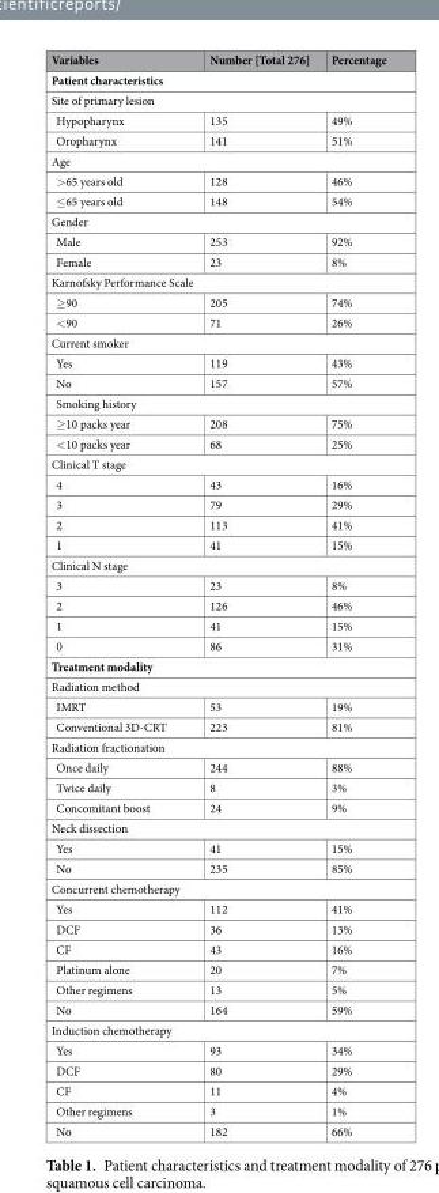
<table><thead><tr><td>Variables</td><td>Number [Total 276]</td><td>Percentage</td></tr></thead><tbody><tr><td colspan="3">Patient characteristics</td></tr><tr><td colspan="3">Site of primary lesion</td></tr><tr><td>Hypopharynx</td><td>135</td><td>49%</td></tr><tr><td>Oropharynx</td><td>141</td><td>51%</td></tr><tr><td colspan="3">Age</td></tr><tr><td>&gt;65 years old</td><td>128</td><td>46%</td></tr><tr><td>≤65 years old</td><td>148</td><td>54%</td></tr><tr><td colspan="3">Gender</td></tr><tr><td>Male</td><td>253</td><td>92%</td></tr><tr><td>Female</td><td>23</td><td>8%</td></tr><tr><td colspan="3">Karnofsky Performance Scale</td></tr><tr><td>≥90</td><td>205</td><td>74%</td></tr><tr><td>&lt;90</td><td>71</td><td>26%</td></tr><tr><td colspan="3">Current smoker</td></tr><tr><td>Yes</td><td>119</td><td>43%</td></tr><tr><td>No</td><td>157</td><td>57%</td></tr><tr><td colspan="3">Smoking history</td></tr><tr><td>≥10 packs year</td><td>208</td><td>75%</td></tr><tr><td>&lt;10 packs year</td><td>68</td><td>25%</td></tr><tr><td colspan="3">Clinical T stage</td></tr><tr><td>4</td><td>43</td><td>16%</td></tr><tr><td>3</td><td>79</td><td>29%</td></tr><tr><td>2</td><td>113</td><td>41%</td></tr><tr><td>1</td><td>41</td><td>15%</td></tr><tr><td colspan="3">Clinical N stage</td></tr><tr><td>3</td><td>23</td><td>8%</td></tr><tr><td>2</td><td>126</td><td>46%</td></tr><tr><td>1</td><td>41</td><td>15%</td></tr><tr><td>0</td><td>86</td><td>31%</td></tr><tr><td colspan="3">Treatment modality</td></tr><tr><td colspan="3">Radiation method</td></tr><tr><td>IMRT</td><td>53</td><td>19%</td></tr><tr><td>Conventional 3D-CRT</td><td>223</td><td>81%</td></tr><tr><td colspan="3">Radiation fractionation</td></tr><tr><td>Once daily</td><td>244</td><td>88%</td></tr><tr><td>Twice daily</td><td>8</td><td>3%</td></tr><tr><td>Concomitant boost</td><td>24</td><td>9%</td></tr><tr><td colspan="3">Neck dissection</td></tr><tr><td>Yes</td><td>41</td><td>15%</td></tr><tr><td>No</td><td>235</td><td>85%</td></tr><tr><td colspan="3">Concurrent chemotherapy</td></tr><tr><td>Yes</td><td>112</td><td>41%</td></tr><tr><td>DCF</td><td>36</td><td>13%</td></tr><tr><td>CF</td><td>43</td><td>16%</td></tr><tr><td>Platinum alone</td><td>20</td><td>7%</td></tr><tr><td>Other regimens</td><td>13</td><td>5%</td></tr><tr><td>No</td><td>164</td><td>59%</td></tr><tr><td colspan="3">Induction chemotherapy</td></tr><tr><td>Yes</td><td>93</td><td>34%</td></tr><tr><td>DCF</td><td>80</td><td>29%</td></tr><tr><td>CF</td><td>11</td><td>4%</td></tr><tr><td>Other regimens</td><td>3</td><td>1%</td></tr><tr><td>No</td><td>182</td><td>66%</td></tr></tbody></table>